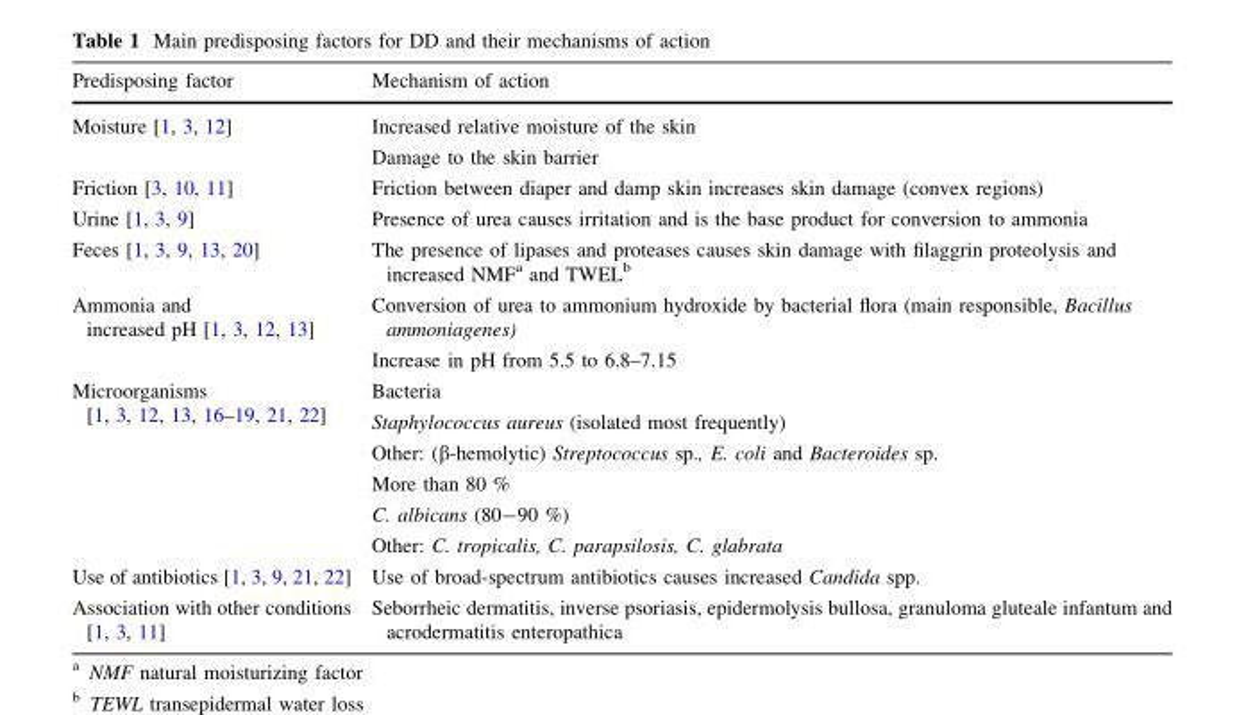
<table><thead><tr><td>Predisposing factor</td><td>Mechanism of action</td></tr></thead><tbody><tr><td>Moisture [1, 3, 12]</td><td>Increased relative moisture of the skin Damage to the skin barrier</td></tr><tr><td>Friction [3, 10, 11]</td><td>Friction between diaper and damp skin increases skin damage (convex regions)</td></tr><tr><td>Urine [1, 3, 9]</td><td>Presence of urea causes irritation and is the base product for conversion to ammonia</td></tr><tr><td>Feces [1, 3, 9, 13, 20]</td><td>The presence of lipases and proteases causes skin damage with filaggrin proteolysis and increased NMF<sup>a</sup> and TWEL<sup>b</sup></td></tr><tr><td>Ammonia and increased pH [1, 3, 12, 13]</td><td>Conversion of urea to ammonium hydroxide by bacterial flora (main responsible, Bacillus ammoniagenes) Increase in pH from 5.5 to 6.8–7.15</td></tr><tr><td>Microorganisms [1, 3, 12, 13, 16–19, 21, 22]</td><td>Bacteria Staphylococcus aureus (isolated most frequently) Other: (β-hemolytic) Streptococcus sp., E. coli and Bacteroides sp. More than 80 % C. albicans (80-90 %) Other: C. tropicalis, C. parapsilosis, C. glabrata</td></tr><tr><td>Use of antibiotics [1, 3, 9, 21, 22]</td><td>Use of broad-spectrum antibiotics causes increased Candida spp.</td></tr><tr><td>Association with other conditions [1, 3, 11]</td><td>Seborrheic dermatitis, inverse psoriasis, epidermolysis bullosa, granuloma gluteale infantum and acrodermatitis enteropathica</td></tr></tbody></table>